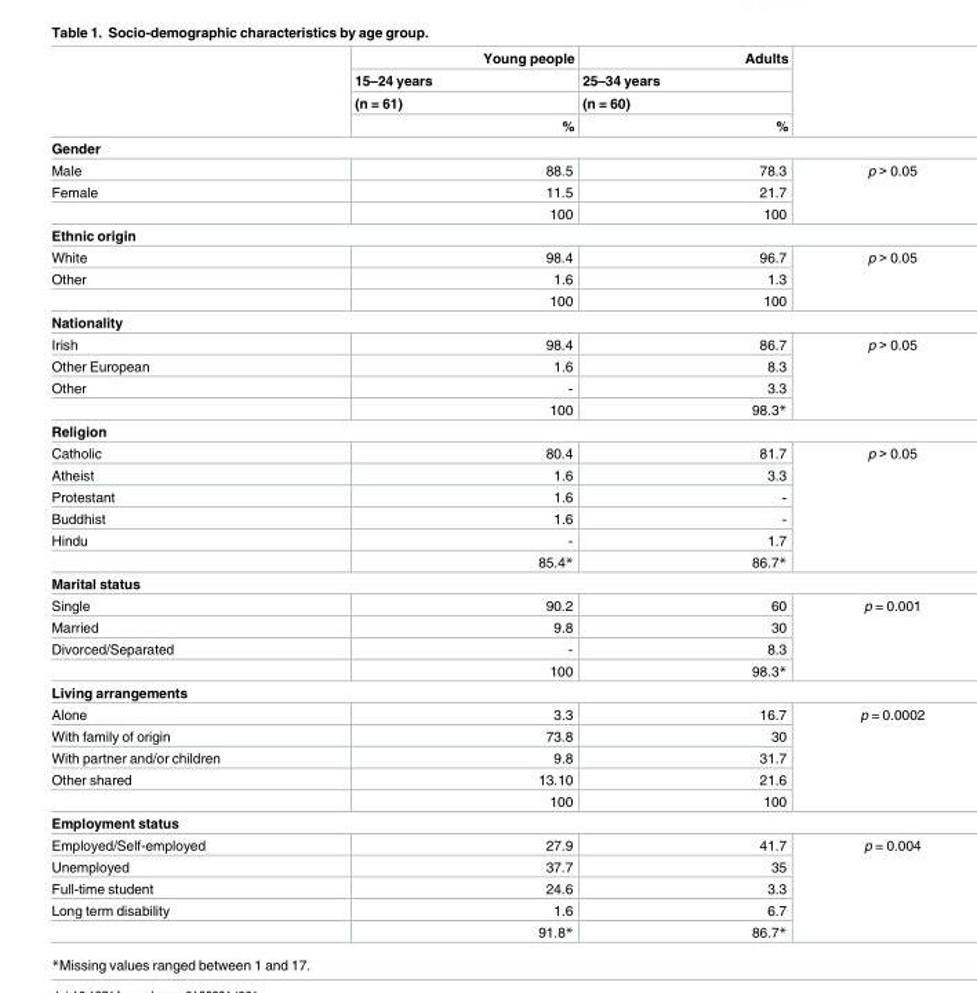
<table><thead><tr><td rowspan="4"></td><td rowspan="4">Young people 15–24 years (n = 61) %</td><td rowspan="4">Adults 25–34 years (n = 60) %</td><td rowspan="4"></td></tr><tr></tr><tr></tr><tr></tr></thead><tbody><tr><td colspan="4">Gender</td></tr><tr><td>Male</td><td>88.5</td><td>78.3</td><td rowspan="3">p &gt; 0.05</td></tr><tr><td rowspan="2">Female</td><td>11.5</td><td>21.7</td></tr><tr><td>100</td><td>100</td></tr><tr><td colspan="4">Ethnic origin</td></tr><tr><td>White</td><td>98.4</td><td>96.7</td><td rowspan="3">p &gt; 0.05</td></tr><tr><td rowspan="2">Other</td><td>1.6</td><td>1.3</td></tr><tr><td>100</td><td>100</td></tr><tr><td colspan="4">Nationality</td></tr><tr><td>Irish</td><td>98.4</td><td>86.7</td><td rowspan="4">p &gt; 0.05</td></tr><tr><td>Other European</td><td>1.6</td><td>8.3</td></tr><tr><td rowspan="2">Other</td><td>-</td><td>3.3</td></tr><tr><td>100</td><td>98.3*</td></tr><tr><td colspan="4">Religion</td></tr><tr><td>Catholic</td><td>80.4</td><td>81.7</td><td rowspan="6">p &gt; 0.05</td></tr><tr><td>Atheist</td><td>1.6</td><td>3.3</td></tr><tr><td>Protestant</td><td>1.6</td><td>-</td></tr><tr><td>Buddhist</td><td>1.6</td><td>-</td></tr><tr><td rowspan="2">Hindu</td><td>-</td><td>1.7</td></tr><tr><td>85.4*</td><td>86.7*</td></tr><tr><td colspan="4">Marital status</td></tr><tr><td>Single</td><td>90.2</td><td>60</td><td rowspan="4">p = 0.001</td></tr><tr><td>Married</td><td>9.8</td><td>30</td></tr><tr><td rowspan="2">Divorced/Separated</td><td>-</td><td>8.3</td></tr><tr><td>100</td><td>98.3*</td></tr><tr><td colspan="4">Living arrangements</td></tr><tr><td>Alone</td><td>3.3</td><td>16.7</td><td rowspan="5">p = 0.0002</td></tr><tr><td>With family of origin</td><td>73.8</td><td>30</td></tr><tr><td>With partner and/or children</td><td>9.8</td><td>31.7</td></tr><tr><td rowspan="2">Other shared</td><td>13.10</td><td>21.6</td></tr><tr><td>100</td><td>100</td></tr><tr><td colspan="4">Employment status</td></tr><tr><td>Employed/Self-employed</td><td>27.9</td><td>41.7</td><td rowspan="5">p = 0.004</td></tr><tr><td>Unemployed</td><td>37.7</td><td>35</td></tr><tr><td>Full-time student</td><td>24.6</td><td>3.3</td></tr><tr><td rowspan="2">Long term disability</td><td>1.6</td><td>6.7</td></tr><tr><td>91.8*</td><td>86.7*</td></tr></tbody></table>